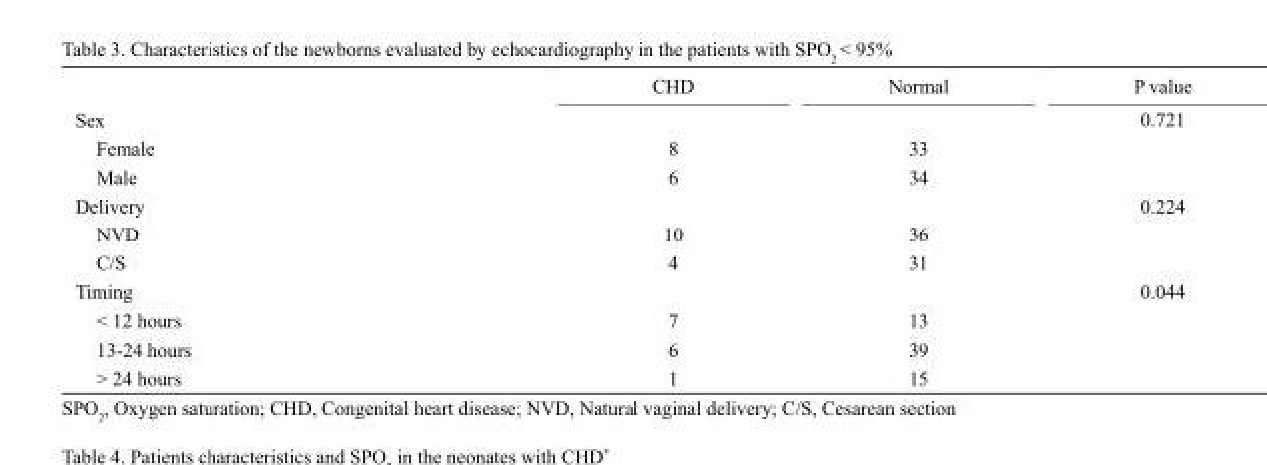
<table><thead><tr><td></td><td>CHD</td><td>Normal</td><td>P value</td></tr></thead><tbody><tr><td>Sex</td><td></td><td></td><td>0.721</td></tr><tr><td>Female</td><td>8</td><td>33</td><td></td></tr><tr><td>Male</td><td>6</td><td>34</td><td></td></tr><tr><td>Delivery</td><td></td><td></td><td>0.224</td></tr><tr><td>NVD</td><td>10</td><td>36</td><td></td></tr><tr><td>C/S</td><td>4</td><td>31</td><td></td></tr><tr><td>Timing</td><td></td><td></td><td>0.044</td></tr><tr><td>&lt; 12 hours</td><td>7</td><td>13</td><td></td></tr><tr><td>13-24 hours</td><td>6</td><td>39</td><td></td></tr><tr><td>&gt; 24 hours</td><td>1</td><td>15</td><td></td></tr></tbody></table>